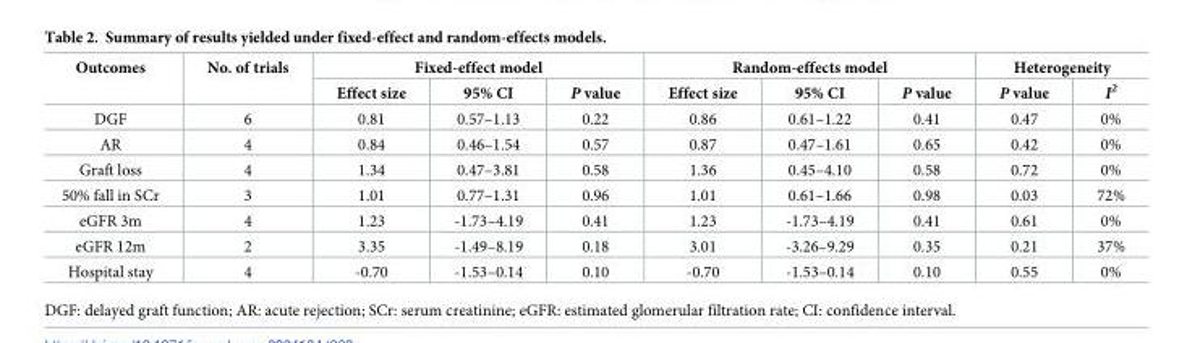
<table><thead><tr><td rowspan="2">Outcomes</td><td rowspan="2">No. of trials</td><td colspan="3">Fixed-effect model</td><td colspan="3">Random-effects model</td><td colspan="2">Heterogeneity</td></tr><tr><td>Effect size</td><td>95% CI</td><td>P value</td><td>Effect size</td><td>95% CI</td><td>P value</td><td>P value</td><td>I<sup>2</sup></td></tr></thead><tbody><tr><td>DGF</td><td>6</td><td>0.81</td><td>0.57–1.13</td><td>0.22</td><td>0.86</td><td>0.61–1.22</td><td>0.41</td><td>0.47</td><td>0%</td></tr><tr><td>AR</td><td>4</td><td>0.84</td><td>0.46–1.54</td><td>0.57</td><td>0.87</td><td>0.47–1.61</td><td>0.65</td><td>0.42</td><td>0%</td></tr><tr><td>Graft loss</td><td>4</td><td>1.34</td><td>0.47–3.81</td><td>0.58</td><td>1.36</td><td>0.45–4.10</td><td>0.58</td><td>0.72</td><td>0%</td></tr><tr><td>50% fall in SCr</td><td>3</td><td>1.01</td><td>0.77–1.31</td><td>0.96</td><td>1.01</td><td>0.61–1.66</td><td>0.98</td><td>0.03</td><td>72%</td></tr><tr><td>eGFR 3m</td><td>4</td><td>1.23</td><td>-1.73–4.19</td><td>0.41</td><td>1.23</td><td>-1.73–4.19</td><td>0.41</td><td>0.61</td><td>0%</td></tr><tr><td>eGFR 12m</td><td>2</td><td>3.35</td><td>-1.49–8.19</td><td>0.18</td><td>3.01</td><td>-3.26–9.29</td><td>0.35</td><td>0.21</td><td>37%</td></tr><tr><td>Hospital stay</td><td>4</td><td>-0.70</td><td>-1.53–0.14</td><td>0.10</td><td>-0.70</td><td>-1.53–0.14</td><td>0.10</td><td>0.55</td><td>0%</td></tr></tbody></table>